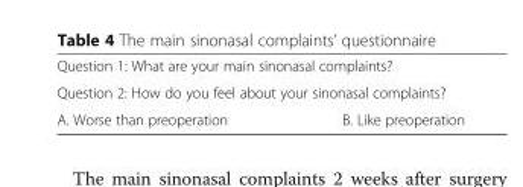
<table><tbody><tr><td colspan="2">Question 1: What are your main sinonasal complaints?</td></tr><tr><td colspan="2">Question 2: How do you feel about your sinonasal complaints?</td></tr><tr><td>A. Worse than preoperation</td><td>B. Like preoperation</td></tr></tbody></table>